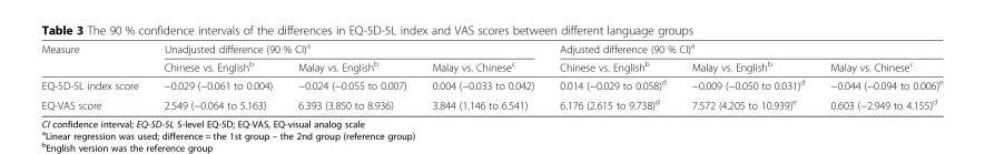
<table><thead><tr><td rowspan="2">Measure</td><td colspan="3">Unadjusted difference (90 % CI)<sup>a</sup></td><td colspan="3">Adjusted difference (90 % CI)<sup>a</sup></td></tr><tr><td>Chinese vs. English<sup>b</sup></td><td>Malay vs. English<sup>b</sup></td><td>Malay vs. Chinese<sup>c</sup></td><td>Chinese vs. English<sup>b</sup></td><td>Malay vs. English<sup>b</sup></td><td>Malay vs. Chinese<sup>c</sup></td></tr></thead><tbody><tr><td>EQ-5D-5L index score</td><td>−0.029 (−0.061 to 0.004)</td><td>−0.024 (−0.055 to 0.007)</td><td>0.004 (−0.033 to 0.042)</td><td>0.014 (−0.029 to 0.058)<sup>d</sup></td><td>−0.009 (−0.050 to 0.031)<sup>d</sup></td><td>−0.044 (−0.094 to 0.006)<sup>e</sup></td></tr><tr><td>EQ-VAS score</td><td>2.549 (−0.064 to 5.163)</td><td>6.393 (3.850 to 8.936)</td><td>3.844 (1.146 to 6.541)</td><td>6.176 (2.615 to 9.738)<sup>d</sup></td><td>7.572 (4.205 to 10.939)<sup>e</sup></td><td>0.603 (−2.949 to 4.155)<sup>d</sup></td></tr></tbody></table>